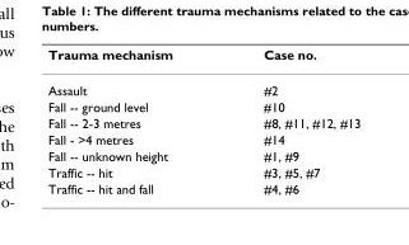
<table><thead><tr><td>Trauma mechanism</td><td>Case no.</td></tr></thead><tbody><tr><td>Assault</td><td>#2</td></tr><tr><td>Fall -- ground level</td><td>#10</td></tr><tr><td>Fall -- 2-3 metres</td><td>#8, #11, #12, #13</td></tr><tr><td>Fall - &gt;4 metres</td><td>#14</td></tr><tr><td>Fall -- unknown height</td><td>#1, #9</td></tr><tr><td>Traffic -- hit</td><td>#3, #5, #7</td></tr><tr><td>Traffic -- hit and fall</td><td>#4, #6</td></tr></tbody></table>